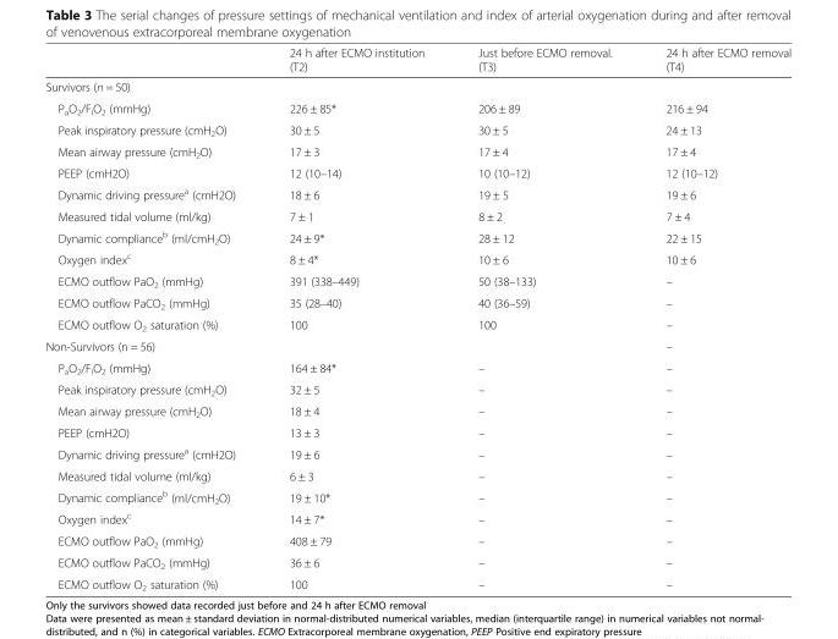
<table><thead><tr><td></td><td>24 h after ECMO institution (T2)</td><td>Just before ECMO removal. (T3)</td><td>24 h after ECMO removal (T4)</td></tr></thead><tbody><tr><td colspan="4">Survivors (n = 50)</td></tr><tr><td>P<sub>a</sub>O<sub>2</sub>/F<sub>i</sub>O<sub>2</sub> (mmHg)</td><td>226 ± 85*</td><td>206 ± 89</td><td>216 ± 94</td></tr><tr><td>Peak inspiratory pressure (cmH<sub>2</sub>O)</td><td>30 ± 5</td><td>30 ± 5</td><td>24 ± 13</td></tr><tr><td>Mean airway pressure (cmH<sub>2</sub>O)</td><td>17 ± 3</td><td>17 ± 4</td><td>17 ± 4</td></tr><tr><td>PEEP (cmH2O)</td><td>12 (10–14)</td><td>10 (10–12)</td><td>12 (10–12)</td></tr><tr><td>Dynamic driving pressure<sup>a</sup> (cmH2O)</td><td>18 ± 6</td><td>19 ± 5</td><td>19 ± 6</td></tr><tr><td>Measured tidal volume (ml/kg)</td><td>7 ± 1</td><td>8 ± 2</td><td>7 ± 4</td></tr><tr><td>Dynamic compliance<sup>b</sup> (ml/cmH<sub>2</sub>O)</td><td>24 ± 9*</td><td>28 ± 12</td><td>22 ± 15</td></tr><tr><td>Oxygen index<sup>c</sup></td><td>8 ± 4*</td><td>10 ± 6</td><td>10 ± 6</td></tr><tr><td>ECMO outflow PaO<sub>2</sub> (mmHg)</td><td>391 (338–449)</td><td>50 (38–133)</td><td>–</td></tr><tr><td>ECMO outflow PaCO<sub>2</sub> (mmHg)</td><td>35 (28–40)</td><td>40 (36–59)</td><td>–</td></tr><tr><td>ECMO outflow O<sub>2</sub> saturation (%)</td><td>100</td><td>100</td><td>–</td></tr><tr><td>Non-Survivors (n = 56)</td><td></td><td></td><td>–</td></tr><tr><td>P<sub>a</sub>O<sub>2</sub>/F<sub>i</sub>O<sub>2</sub> (mmHg)</td><td>164 ± 84*</td><td>–</td><td>–</td></tr><tr><td>Peak inspiratory pressure (cmH<sub>2</sub>O)</td><td>32 ± 5</td><td>–</td><td>–</td></tr><tr><td>Mean airway pressure (cmH<sub>2</sub>O)</td><td>18 ± 4</td><td>–</td><td>–</td></tr><tr><td>PEEP (cmH2O)</td><td>13 ± 3</td><td>–</td><td>–</td></tr><tr><td>Dynamic driving pressure<sup>a</sup> (cmH2O)</td><td>19 ± 6</td><td>–</td><td>–</td></tr><tr><td>Measured tidal volume (ml/kg)</td><td>6 ± 3</td><td>–</td><td>–</td></tr><tr><td>Dynamic compliance<sup>b</sup> (ml/cmH<sub>2</sub>O)</td><td>19 ± 10*</td><td>–</td><td>–</td></tr><tr><td>Oxygen index<sup>c</sup></td><td>14 ± 7*</td><td>–</td><td>–</td></tr><tr><td>ECMO outflow PaO<sub>2</sub> (mmHg)</td><td>408 ± 79</td><td>–</td><td>–</td></tr><tr><td>ECMO outflow PaCO<sub>2</sub> (mmHg)</td><td>36 ± 6</td><td>–</td><td>–</td></tr><tr><td>ECMO outflow O<sub>2</sub> saturation (%)</td><td>100</td><td>–</td><td>–</td></tr></tbody></table>